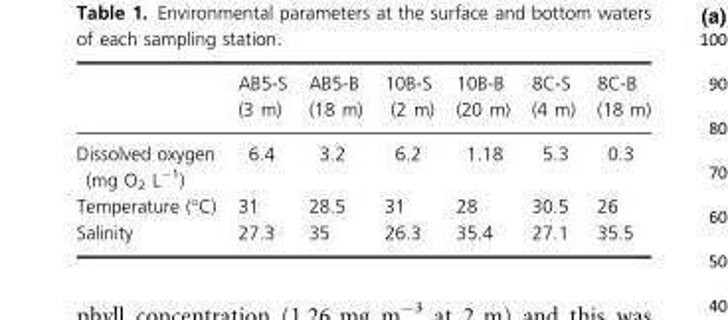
<table><thead><tr><td></td><td>AB5-S (3 m)</td><td>AB5-B (18 m)</td><td>10B-S (2 m)</td><td>10B-B (20 m)</td><td>8C-S (4 m)</td><td>8C-B (18 m)</td></tr></thead><tbody><tr><td>Dissolved oxygen (mg O<sub>2</sub> L<sup>−1</sup>)</td><td>6.4</td><td>3.2</td><td>6.2</td><td>1.18</td><td>5.3</td><td>0.3</td></tr><tr><td>Temperature (°C)</td><td>31</td><td>28.5</td><td>31</td><td>28</td><td>30.5</td><td>26</td></tr><tr><td>Salinity</td><td>27.3</td><td>35</td><td>26.3</td><td>35.4</td><td>27.1</td><td>35.5</td></tr></tbody></table>